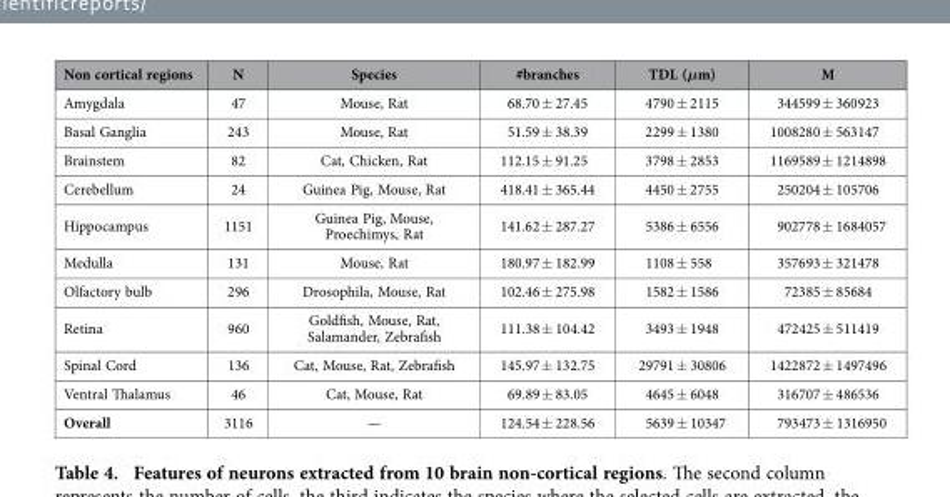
<table><thead><tr><td>Non cortical regions</td><td>N</td><td>Species</td><td>#branches</td><td>TDL (μm)</td><td>M</td></tr></thead><tbody><tr><td>Amygdala</td><td>47</td><td>Mouse, Rat</td><td>68.70 ± 27.45</td><td>4790 ± 2115</td><td>344599 ± 360923</td></tr><tr><td>Basal Ganglia</td><td>243</td><td>Mouse, Rat</td><td>51.59 ± 38.39</td><td>2299 ± 1380</td><td>1008280 ± 563147</td></tr><tr><td>Brainstem</td><td>82</td><td>Cat, Chicken, Rat</td><td>112.15 ± 91.25</td><td>3798 ± 2853</td><td>1169589 ± 1214898</td></tr><tr><td>Cerebellum</td><td>24</td><td>Guinea Pig, Mouse, Rat</td><td>418.41 ± 365.44</td><td>4450 ± 2755</td><td>250204 ± 105706</td></tr><tr><td>Hippocampus</td><td>1151</td><td>Guinea Pig, Mouse, Proechimys, Rat</td><td>141.62 ± 287.27</td><td>5386 ± 6556</td><td>902778 ± 1684057</td></tr><tr><td>Medulla</td><td>131</td><td>Mouse, Rat</td><td>180.97 ± 182.99</td><td>1108 ± 558</td><td>357693 ± 321478</td></tr><tr><td>Olfactory bulb</td><td>296</td><td>Drosophila, Mouse, Rat</td><td>102.46 ± 275.98</td><td>1582 ± 1586</td><td>72385 ± 85684</td></tr><tr><td>Retina</td><td>960</td><td>Goldfish, Mouse, Rat, Salamander, Zebrafish</td><td>111.38 ± 104.42</td><td>3493 ± 1948</td><td>472425 ± 511419</td></tr><tr><td>Spinal Cord</td><td>136</td><td>Cat, Mouse, Rat, Zebrafish</td><td>145.97 ± 132.75</td><td>29791 ± 30806</td><td>1422872 ± 1497496</td></tr><tr><td>Ventral Thalamus</td><td>46</td><td>Cat, Mouse, Rat</td><td>69.89 ± 83.05</td><td>4645 ± 6048</td><td>316707 ± 486536</td></tr><tr><td>Overall</td><td>3116</td><td>—</td><td>124.54 ± 228.56</td><td>5639 ± 10347</td><td>793473 ± 1316950</td></tr></tbody></table>